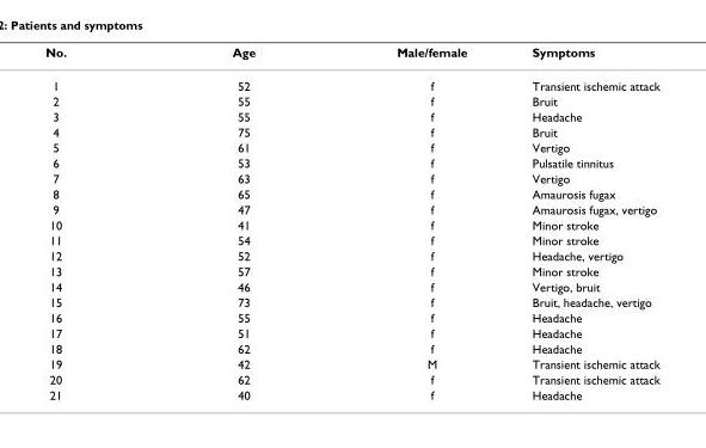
<table><thead><tr><td>No.</td><td>Age</td><td>Male/female</td><td>Symptoms</td></tr></thead><tbody><tr><td>1</td><td>52</td><td>f</td><td>Transient ischemic attack</td></tr><tr><td>2</td><td>55</td><td>f</td><td>Bruit</td></tr><tr><td>3</td><td>55</td><td>f</td><td>Headache</td></tr><tr><td>4</td><td>75</td><td>f</td><td>Bruit</td></tr><tr><td>5</td><td>61</td><td>f</td><td>Vertigo</td></tr><tr><td>6</td><td>53</td><td>f</td><td>Pulsatile tinnitus</td></tr><tr><td>7</td><td>63</td><td>f</td><td>Vertigo</td></tr><tr><td>8</td><td>65</td><td>f</td><td>Amaurosis fugax</td></tr><tr><td>9</td><td>47</td><td>f</td><td>Amaurosis fugax, vertigo</td></tr><tr><td>10</td><td>41</td><td>f</td><td>Minor stroke</td></tr><tr><td>11</td><td>54</td><td>f</td><td>Minor stroke</td></tr><tr><td>12</td><td>52</td><td>f</td><td>Headache, vertigo</td></tr><tr><td>13</td><td>57</td><td>f</td><td>Minor stroke</td></tr><tr><td>14</td><td>46</td><td>f</td><td>Vertigo, bruit</td></tr><tr><td>15</td><td>73</td><td>f</td><td>Bruit, headache, vertigo</td></tr><tr><td>16</td><td>55</td><td>f</td><td>Headache</td></tr><tr><td>17</td><td>51</td><td>f</td><td>Headache</td></tr><tr><td>18</td><td>62</td><td>f</td><td>Headache</td></tr><tr><td>19</td><td>42</td><td>M</td><td>Transient ischemic attack</td></tr><tr><td>20</td><td>62</td><td>f</td><td>Transient ischemic attack</td></tr><tr><td>21</td><td>40</td><td>f</td><td>Headache</td></tr></tbody></table>